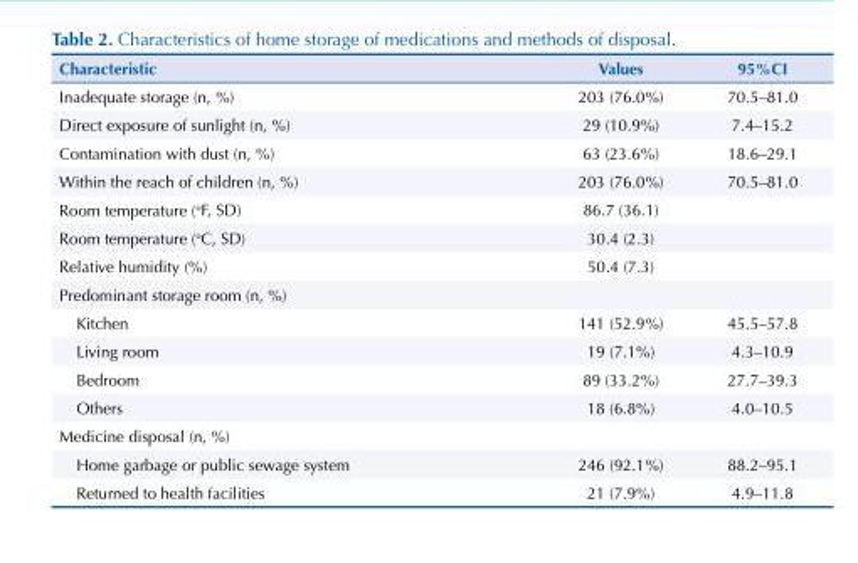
<table><thead><tr><td>Characteristic</td><td>Values</td><td>95%CI</td></tr></thead><tbody><tr><td>Inadequate storage (n, %)</td><td>203 (76.0%)</td><td>70.5–81.0</td></tr><tr><td>Direct exposure of sunlight (n, %)</td><td>29 (10.9%)</td><td>7.4–15.2</td></tr><tr><td>Contamination with dust (n, %)</td><td>63 (23.6%)</td><td>18.6–29.1</td></tr><tr><td>Within the reach of children (n, %)</td><td>203 (76.0%)</td><td>70.5–81.0</td></tr><tr><td>Room temperature (<sup>o</sup>F, SD)</td><td>86.7 (36.1)</td><td></td></tr><tr><td>Room temperature (<sup>o</sup>C, SD)</td><td>30.4 (2.3)</td><td></td></tr><tr><td>Relative humidity (%)</td><td>50.4 (7.3)</td><td></td></tr><tr><td colspan="3">Predominant storage room (n, %)</td></tr><tr><td>Kitchen</td><td>141 (52.9%)</td><td>45.5–57.8</td></tr><tr><td>Living room</td><td>19 (7.1%)</td><td>4.3–10.9</td></tr><tr><td>Bedroom</td><td>89 (33.2%)</td><td>27.7–39.3</td></tr><tr><td>Others</td><td>18 (6.8%)</td><td>4.0–10.5</td></tr><tr><td colspan="3">Medicine disposal (n, %)</td></tr><tr><td>Home garbage or public sewage system</td><td>246 (92.1%)</td><td>88.2–95.1</td></tr><tr><td>Returned to health facilities</td><td>21 (7.9%)</td><td>4.9–11.8</td></tr></tbody></table>